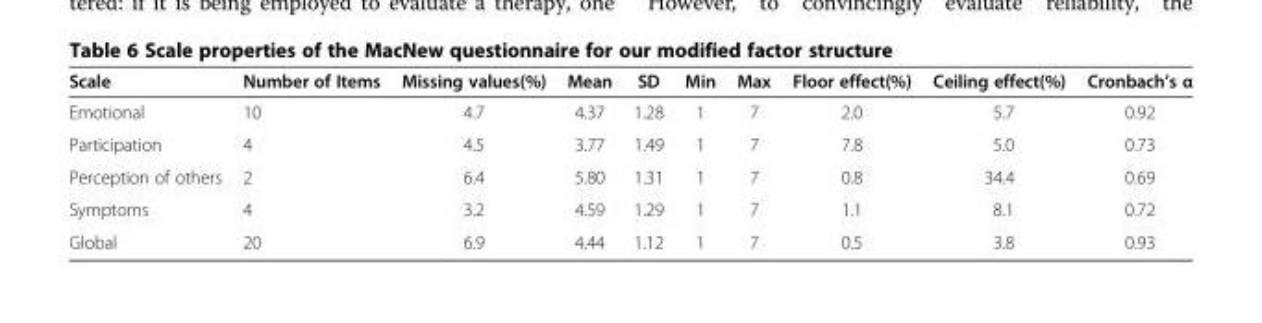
<table><thead><tr><td>Scale</td><td>Number of Items</td><td>Missing values(%)</td><td>Mean</td><td>SD</td><td>Min</td><td>Max</td><td>Floor effect(%)</td><td>Ceiling effect(%)</td><td>Cronbach’s α</td></tr></thead><tbody><tr><td>Emotional</td><td>10</td><td>4.7</td><td>4.37</td><td>1.28</td><td>1</td><td>7</td><td>2.0</td><td>5.7</td><td>0.92</td></tr><tr><td>Participation</td><td>4</td><td>4.5</td><td>3.77</td><td>1.49</td><td>1</td><td>7</td><td>7.8</td><td>5.0</td><td>0.73</td></tr><tr><td>Perception of others</td><td>2</td><td>6.4</td><td>5.80</td><td>1.31</td><td>1</td><td>7</td><td>0.8</td><td>34.4</td><td>0.69</td></tr><tr><td>Symptoms</td><td>4</td><td>3.2</td><td>4.59</td><td>1.29</td><td>1</td><td>7</td><td>1.1</td><td>8.1</td><td>0.72</td></tr><tr><td>Global</td><td>20</td><td>6.9</td><td>4.44</td><td>1.12</td><td>1</td><td>7</td><td>0.5</td><td>3.8</td><td>0.93</td></tr></tbody></table>